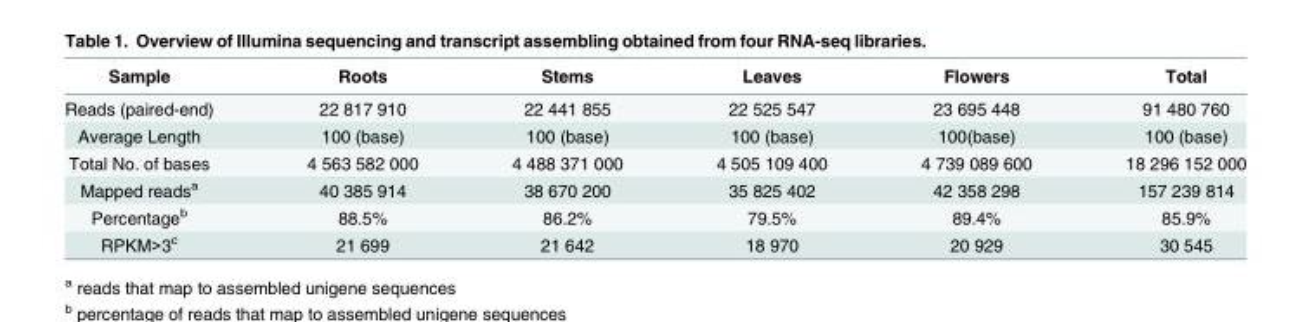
<table><thead><tr><td>Sample</td><td>Roots</td><td>Stems</td><td>Leaves</td><td>Flowers</td><td>Total</td></tr></thead><tbody><tr><td>Reads (paired-end)</td><td>22 817 910</td><td>22 441 855</td><td>22 525 547</td><td>23 695 448</td><td>91 480 760</td></tr><tr><td>Average Length</td><td>100 (base)</td><td>100 (base)</td><td>100 (base)</td><td>100(base)</td><td>100 (base)</td></tr><tr><td>Total No. of bases</td><td>4 563 582 000</td><td>4 488 371 000</td><td>4 505 109 400</td><td>4 739 089 600</td><td>18 296 152 000</td></tr><tr><td>Mapped reads<sup>a</sup></td><td>40 385 914</td><td>38 670 200</td><td>35 825 402</td><td>42 358 298</td><td>157 239 814</td></tr><tr><td>Percentage<sup>b</sup></td><td>88.5%</td><td>86.2%</td><td>79.5%</td><td>89.4%</td><td>85.9%</td></tr><tr><td>RPKM&gt;3<sup>c</sup></td><td>21 699</td><td>21 642</td><td>18 970</td><td>20 929</td><td>30 545</td></tr></tbody></table>